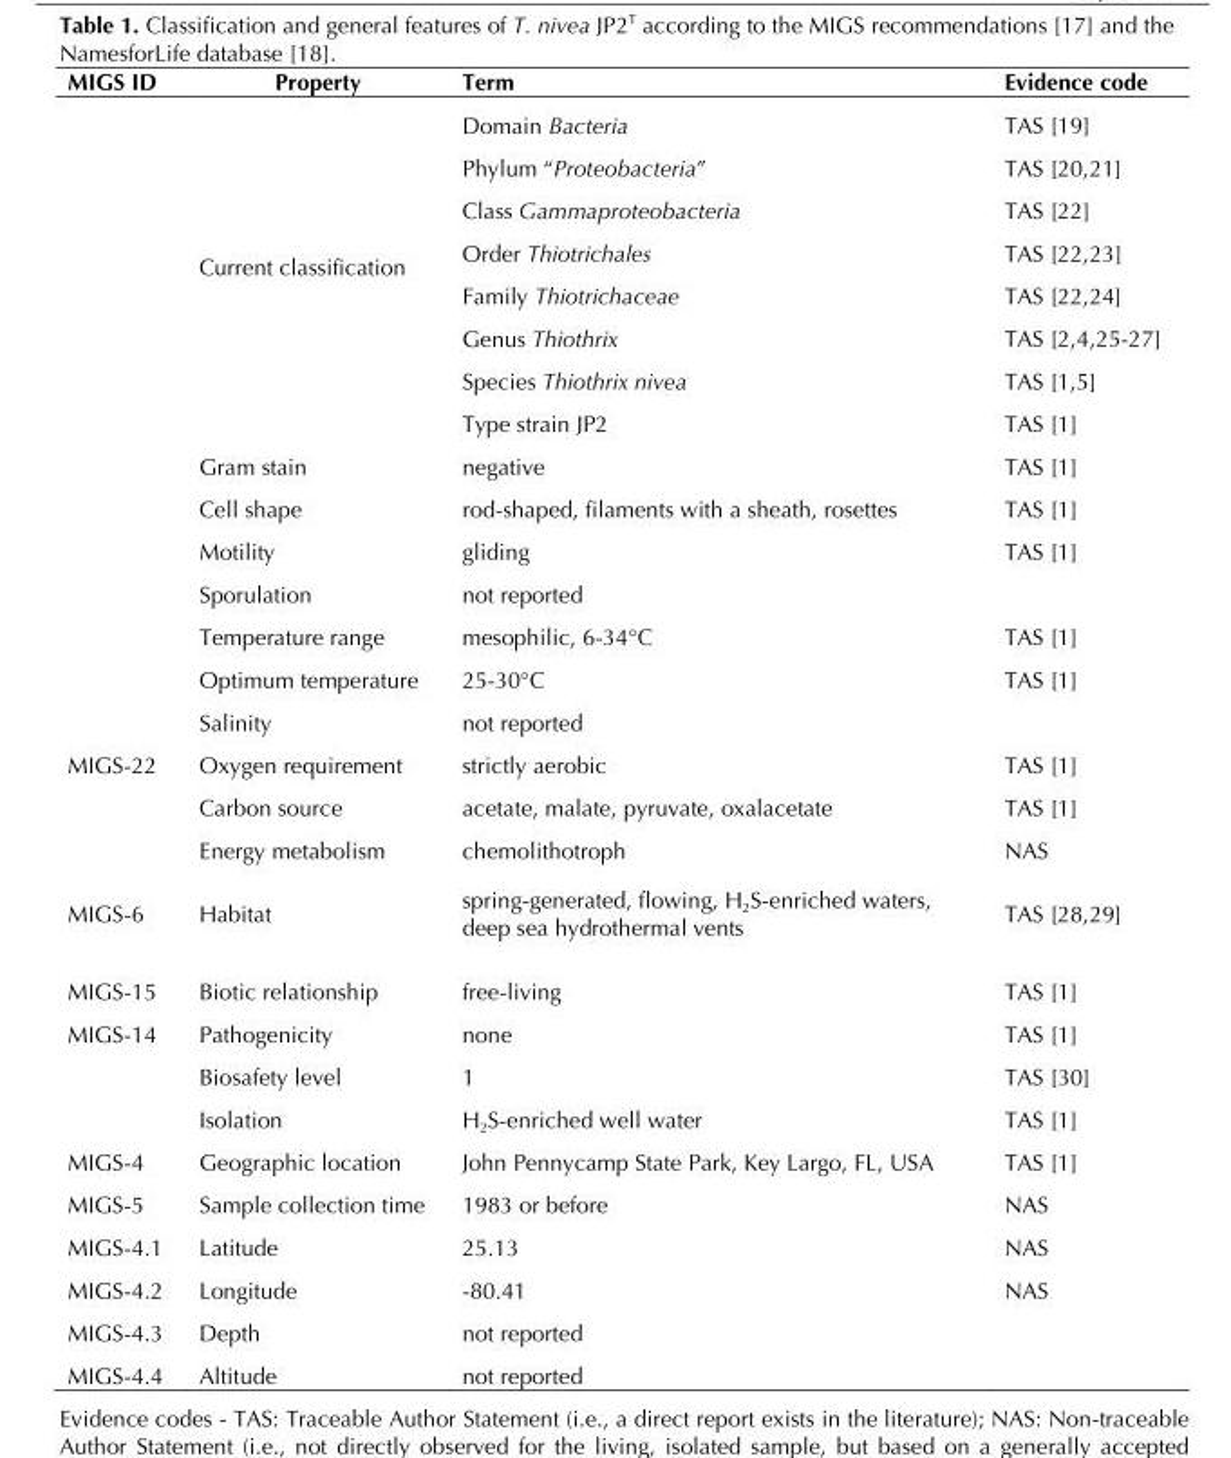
<table><thead><tr><td>MIGS ID</td><td>Property</td><td>Term</td><td>Evidence code</td></tr></thead><tbody><tr><td rowspan="8"></td><td rowspan="8">Current classification</td><td>Domain Bacteria</td><td>TAS [19]</td></tr><tr><td>Phylum “Proteobacteria”</td><td>TAS [20,21]</td></tr><tr><td>Class Gammaproteobacteria</td><td>TAS [22]</td></tr><tr><td>Order Thiotrichales</td><td>TAS [22,23]</td></tr><tr><td>Family Thiotrichaceae</td><td>TAS [22,24]</td></tr><tr><td>Genus Thiothrix</td><td>TAS [2,4,25-27]</td></tr><tr><td>Species Thiothrix nivea</td><td>TAS [1,5]</td></tr><tr><td>Type strain JP2</td><td>TAS [1]</td></tr><tr><td></td><td>Gram stain</td><td>negative</td><td>TAS [1]</td></tr><tr><td></td><td>Cell shape</td><td>rod-shaped, filaments with a sheath, rosettes</td><td>TAS [1]</td></tr><tr><td></td><td>Motility</td><td>gliding</td><td>TAS [1]</td></tr><tr><td></td><td>Sporulation</td><td>not reported</td><td></td></tr><tr><td></td><td>Temperature range</td><td>mesophilic, 6-34°C</td><td>TAS [1]</td></tr><tr><td></td><td>Optimum temperature</td><td>25-30°C</td><td>TAS [1]</td></tr><tr><td></td><td>Salinity</td><td>not reported</td><td></td></tr><tr><td rowspan="3">MIGS-22</td><td>Oxygen requirement</td><td>strictly aerobic</td><td>TAS [1]</td></tr><tr><td>Carbon source</td><td>acetate, malate, pyruvate, oxalacetate</td><td>TAS [1]</td></tr><tr><td>Energy metabolism</td><td>chemolithotroph</td><td>NAS</td></tr><tr><td>MIGS-6</td><td>Habitat</td><td>spring-generated, flowing, H<sub>2</sub>S-enriched waters, deep sea hydrothermal vents</td><td>TAS [28,29]</td></tr><tr><td>MIGS-15</td><td>Biotic relationship</td><td>free-living</td><td>TAS [1]</td></tr><tr><td rowspan="3">MIGS-14</td><td>Pathogenicity</td><td>none</td><td>TAS [1]</td></tr><tr><td>Biosafety level</td><td>1</td><td>TAS [30]</td></tr><tr><td>Isolation</td><td>H<sub>2</sub>S-enriched well water</td><td>TAS [1]</td></tr><tr><td>MIGS-4</td><td>Geographic location</td><td>John Pennycamp State Park, Key Largo, FL, USA</td><td>TAS [1]</td></tr><tr><td>MIGS-5</td><td>Sample collection time</td><td>1983 or before</td><td>NAS</td></tr><tr><td>MIGS-4.1</td><td>Latitude</td><td>25.13</td><td>NAS</td></tr><tr><td>MIGS-4.2</td><td>Longitude</td><td>-80.41</td><td>NAS</td></tr><tr><td>MIGS-4.3</td><td>Depth</td><td>not reported</td><td></td></tr><tr><td>MIGS-4.4</td><td>Altitude</td><td>not reported</td><td></td></tr></tbody></table>